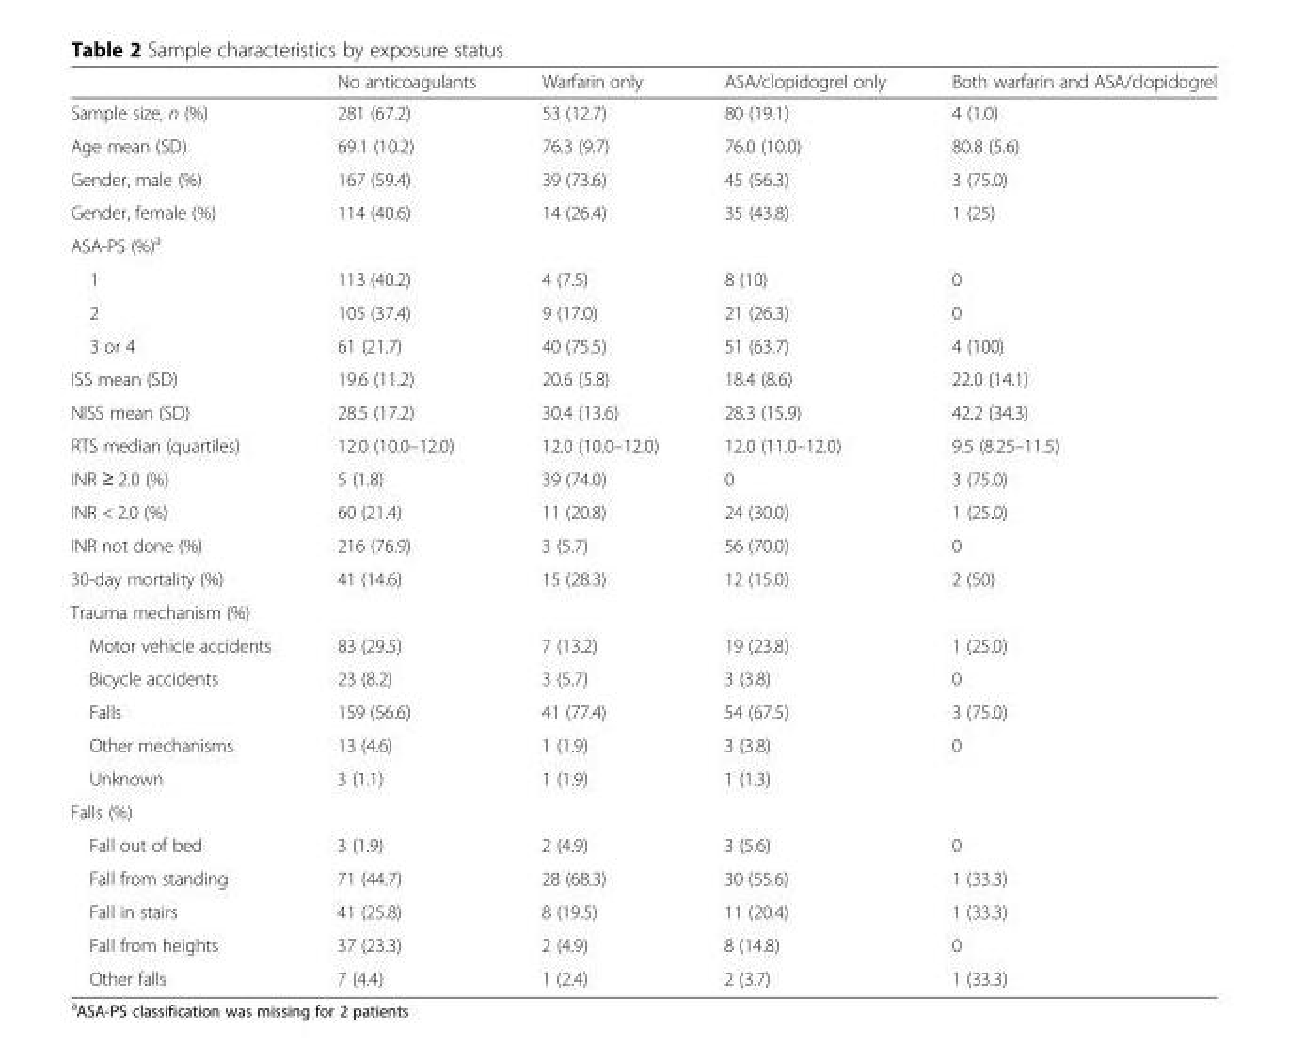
<table><thead><tr><td></td><td>No anticoagulants</td><td>Warfarin only</td><td>ASA/clopidogrel only</td><td>Both warfarin and ASA/clopidogrel</td></tr></thead><tbody><tr><td>Sample size, n (%)</td><td>281 (67.2)</td><td>53 (12.7)</td><td>80 (19.1)</td><td>4 (1.0)</td></tr><tr><td>Age mean (SD)</td><td>69.1 (10.2)</td><td>76.3 (9.7)</td><td>76.0 (10.0)</td><td>80.8 (5.6)</td></tr><tr><td>Gender, male (%)</td><td>167 (59.4)</td><td>39 (73.6)</td><td>45 (56.3)</td><td>3 (75.0)</td></tr><tr><td>Gender, female (%)</td><td>114 (40.6)</td><td>14 (26.4)</td><td>35 (43.8)</td><td>1 (25)</td></tr><tr><td colspan="5">ASA-PS (%)<sup>a</sup></td></tr><tr><td>1</td><td>113 (40.2)</td><td>4 (7.5)</td><td>8 (10)</td><td>0</td></tr><tr><td>2</td><td>105 (37.4)</td><td>9 (17.0)</td><td>21 (26.3)</td><td>0</td></tr><tr><td>3 or 4</td><td>61 (21.7)</td><td>40 (75.5)</td><td>51 (63.7)</td><td>4 (100)</td></tr><tr><td>ISS mean (SD)</td><td>19.6 (11.2)</td><td>20.6 (5.8)</td><td>18.4 (8.6)</td><td>22.0 (14.1)</td></tr><tr><td>NISS mean (SD)</td><td>28.5 (17.2)</td><td>30.4 (13.6)</td><td>28.3 (15.9)</td><td>42.2 (34.3)</td></tr><tr><td>RTS median (quartiles)</td><td>12.0 (10.0–12.0)</td><td>12.0 (10.0–12.0)</td><td>12.0 (11.0–12.0)</td><td>9.5 (8.25–11.5)</td></tr><tr><td>INR ≥ 2.0 (%)</td><td>5 (1.8)</td><td>39 (74.0)</td><td>0</td><td>3 (75.0)</td></tr><tr><td>INR &lt; 2.0 (%)</td><td>60 (21.4)</td><td>11 (20.8)</td><td>24 (30.0)</td><td>1 (25.0)</td></tr><tr><td>INR not done (%)</td><td>216 (76.9)</td><td>3 (5.7)</td><td>56 (70.0)</td><td>0</td></tr><tr><td>30-day mortality (%)</td><td>41 (14.6)</td><td>15 (28.3)</td><td>12 (15.0)</td><td>2 (50)</td></tr><tr><td colspan="5">Trauma mechanism (%)</td></tr><tr><td>Motor vehicle accidents</td><td>83 (29.5)</td><td>7 (13.2)</td><td>19 (23.8)</td><td>1 (25.0)</td></tr><tr><td>Bicycle accidents</td><td>23 (8.2)</td><td>3 (5.7)</td><td>3 (3.8)</td><td>0</td></tr><tr><td>Falls</td><td>159 (56.6)</td><td>41 (77.4)</td><td>54 (67.5)</td><td>3 (75.0)</td></tr><tr><td>Other mechanisms</td><td>13 (4.6)</td><td>1 (1.9)</td><td>3 (3.8)</td><td>0</td></tr><tr><td>Unknown</td><td>3 (1.1)</td><td>1 (1.9)</td><td>1 (1.3)</td><td></td></tr><tr><td colspan="5">Falls (%)</td></tr><tr><td>Fall out of bed</td><td>3 (1.9)</td><td>2 (4.9)</td><td>3 (5.6)</td><td>0</td></tr><tr><td>Fall from standing</td><td>71 (44.7)</td><td>28 (68.3)</td><td>30 (55.6)</td><td>1 (33.3)</td></tr><tr><td>Fall in stairs</td><td>41 (25.8)</td><td>8 (19.5)</td><td>11 (20.4)</td><td>1 (33.3)</td></tr><tr><td>Fall from heights</td><td>37 (23.3)</td><td>2 (4.9)</td><td>8 (14.8)</td><td>0</td></tr><tr><td>Other falls</td><td>7 (4.4)</td><td>1 (2.4)</td><td>2 (3.7)</td><td>1 (33.3)</td></tr></tbody></table>